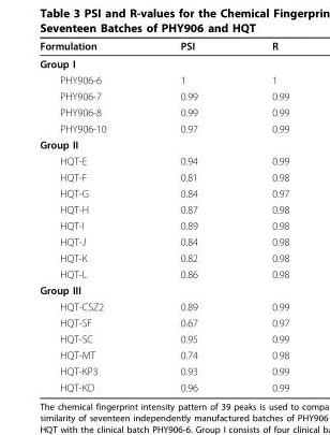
<table><thead><tr><td>Formulation</td><td>PSI</td><td>R</td></tr></thead><tbody><tr><td colspan="3">Group I</td></tr><tr><td>PHY906-6</td><td>1</td><td>1</td></tr><tr><td>PHY906-7</td><td>0.99</td><td>0.99</td></tr><tr><td>PHY906-8</td><td>0.99</td><td>0.99</td></tr><tr><td>PHY906-10</td><td>0.97</td><td>0.99</td></tr><tr><td colspan="3">Group II</td></tr><tr><td>HQT-E</td><td>0.94</td><td>0.99</td></tr><tr><td>HQT-F</td><td>0.81</td><td>0.98</td></tr><tr><td>HQT-G</td><td>0.84</td><td>0.97</td></tr><tr><td>HQT-H</td><td>0.87</td><td>0.98</td></tr><tr><td>HQT-I</td><td>0.89</td><td>0.98</td></tr><tr><td>HQT-J</td><td>0.84</td><td>0.98</td></tr><tr><td>HQT-K</td><td>0.82</td><td>0.98</td></tr><tr><td>HQT-L</td><td>0.86</td><td>0.98</td></tr><tr><td colspan="3">Group III</td></tr><tr><td>HQT-CSZ2</td><td>0.89</td><td>0.99</td></tr><tr><td>HQT-SF</td><td>0.67</td><td>0.97</td></tr><tr><td>HQT-SC</td><td>0.95</td><td>0.99</td></tr><tr><td>HQT-MT</td><td>0.74</td><td>0.98</td></tr><tr><td>HQT-KP3</td><td>0.93</td><td>0.99</td></tr><tr><td>HQT-KD</td><td>0.96</td><td>0.99</td></tr></tbody></table>